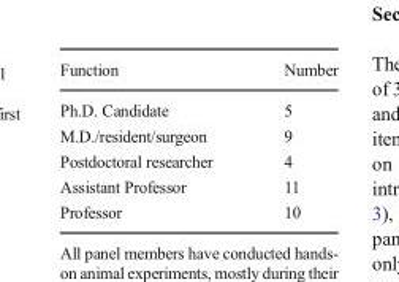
<table><thead><tr><td>Function</td><td>Number</td></tr></thead><tbody><tr><td>Ph.D. Candidate</td><td>5</td></tr><tr><td>M.D./resident/surgeon</td><td>9</td></tr><tr><td>Postdoctoral researcher</td><td>4</td></tr><tr><td>Assistant Professor</td><td>11</td></tr><tr><td>Professor</td><td>10</td></tr></tbody></table>